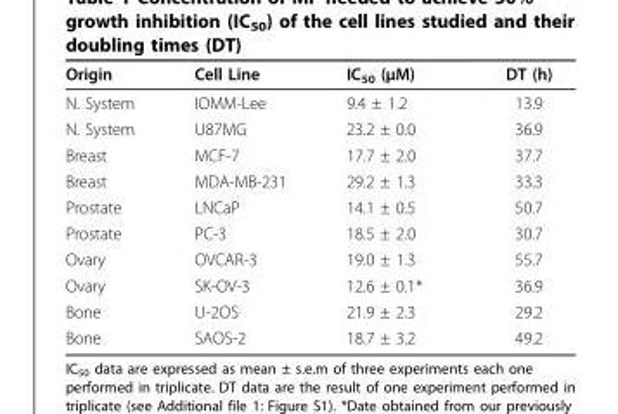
<table><thead><tr><td>Origin</td><td>Cell Line</td><td>IC<sub>50</sub> (μM)</td><td>DT (h)</td></tr></thead><tbody><tr><td>N. System</td><td>IOMM-Lee</td><td>9.4 ± 1.2</td><td>13.9</td></tr><tr><td>N. System</td><td>U87MG</td><td>23.2 ± 0.0</td><td>36.9</td></tr><tr><td>Breast</td><td>MCF-7</td><td>17.7 ± 2.0</td><td>37.7</td></tr><tr><td>Breast</td><td>MDA-MB-231</td><td>29.2 ± 1.3</td><td>33.3</td></tr><tr><td>Prostate</td><td>LNCaP</td><td>14.1 ± 0.5</td><td>50.7</td></tr><tr><td>Prostate</td><td>PC-3</td><td>18.5 ± 2.0</td><td>30.7</td></tr><tr><td>Ovary</td><td>OVCAR-3</td><td>19.0 ± 1.3</td><td>55.7</td></tr><tr><td>Ovary</td><td>SK-OV-3</td><td>12.6 ± 0.1*</td><td>36.9</td></tr><tr><td>Bone</td><td>U-2OS</td><td>21.9 ± 2.3</td><td>29.2</td></tr><tr><td>Bone</td><td>SAOS-2</td><td>18.7 ± 3.2</td><td>49.2</td></tr></tbody></table>